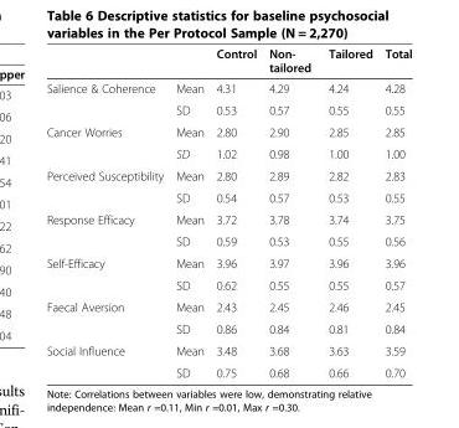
<table><thead><tr><td></td><td></td><td>Control</td><td>Non- tailored</td><td>Tailored</td><td>Total</td></tr></thead><tbody><tr><td rowspan="2">Salience &amp; Coherence</td><td>Mean</td><td>4.31</td><td>4.29</td><td>4.24</td><td>4.28</td></tr><tr><td>SD</td><td>0.53</td><td>0.57</td><td>0.55</td><td>0.55</td></tr><tr><td rowspan="2">Cancer Worries</td><td>Mean</td><td>2.80</td><td>2.90</td><td>2.85</td><td>2.85</td></tr><tr><td>SD</td><td>1.02</td><td>0.98</td><td>1.00</td><td>1.00</td></tr><tr><td rowspan="2">Perceived Susceptibility</td><td>Mean</td><td>2.80</td><td>2.89</td><td>2.82</td><td>2.83</td></tr><tr><td>SD</td><td>0.54</td><td>0.57</td><td>0.53</td><td>0.55</td></tr><tr><td rowspan="2">Response Efficacy</td><td>Mean</td><td>3.72</td><td>3.78</td><td>3.74</td><td>3.75</td></tr><tr><td>SD</td><td>0.59</td><td>0.53</td><td>0.55</td><td>0.56</td></tr><tr><td rowspan="2">Self-Efficacy</td><td>Mean</td><td>3.96</td><td>3.97</td><td>3.96</td><td>3.96</td></tr><tr><td>SD</td><td>0.62</td><td>0.55</td><td>0.55</td><td>0.57</td></tr><tr><td rowspan="2">Faecal Aversion</td><td>Mean</td><td>2.43</td><td>2.45</td><td>2.46</td><td>2.45</td></tr><tr><td>SD</td><td>0.86</td><td>0.84</td><td>0.81</td><td>0.84</td></tr><tr><td rowspan="2">Social Influence</td><td>Mean</td><td>3.48</td><td>3.68</td><td>3.63</td><td>3.59</td></tr><tr><td>SD</td><td>0.75</td><td>0.68</td><td>0.66</td><td>0.70</td></tr></tbody></table>